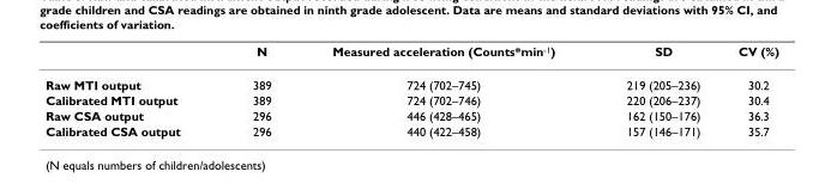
<table><thead><tr><td></td><td>N</td><td>Measured acceleration (Counts*min<sup>-1</sup>)</td><td>SD</td><td>CV (%)</td></tr></thead><tbody><tr><td>Raw MTI output</td><td>389</td><td>724 (702–745)</td><td>219 (205–236)</td><td>30.2</td></tr><tr><td>Calibrated MTI output</td><td>389</td><td>724 (702–746)</td><td>220 (206–237)</td><td>30.4</td></tr><tr><td>Raw CSA output</td><td>296</td><td>446 (428–465)</td><td>162 (150–176)</td><td>36.3</td></tr><tr><td>Calibrated CSA output</td><td>296</td><td>440 (422–458)</td><td>157 (146–171)</td><td>35.7</td></tr></tbody></table>